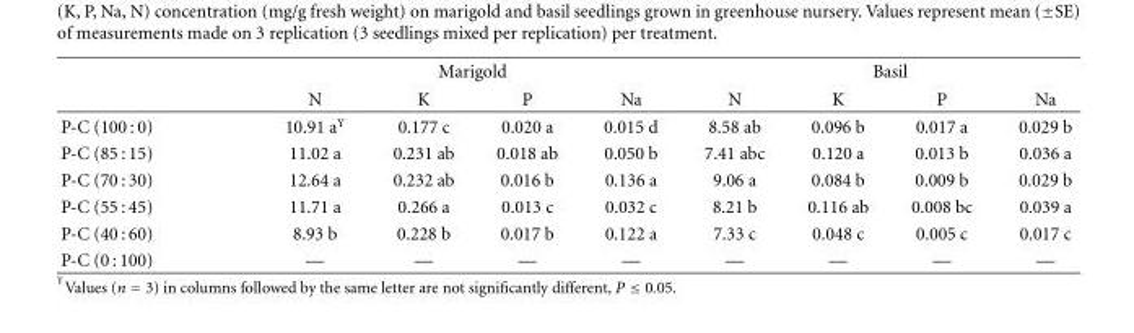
<table><thead><tr><td rowspan="2"></td><td colspan="4">Marigold</td><td colspan="4">Basil</td></tr><tr><td>N</td><td>K</td><td>P</td><td>Na</td><td>N</td><td>K</td><td>P</td><td>Na</td></tr></thead><tbody><tr><td>P-C (100 : 0)</td><td>10.91 a<sup>Y</sup></td><td>0.177 c</td><td>0.020 a</td><td>0.015 d</td><td>8.58 ab</td><td>0.096 b</td><td>0.017 a</td><td>0.029 b</td></tr><tr><td>P-C (85 : 15)</td><td>11.02 a</td><td>0.231 ab</td><td>0.018 ab</td><td>0.050 b</td><td>7.41 abc</td><td>0.120 a</td><td>0.013 b</td><td>0.036 a</td></tr><tr><td>P-C (70 : 30)</td><td>12.64 a</td><td>0.232 ab</td><td>0.016 b</td><td>0.136 a</td><td>9.06 a</td><td>0.084 b</td><td>0.009 b</td><td>0.029 b</td></tr><tr><td>P-C (55 : 45)</td><td>11.71 a</td><td>0.266 a</td><td>0.013 c</td><td>0.032 c</td><td>8.21 b</td><td>0.116 ab</td><td>0.008 bc</td><td>0.039 a</td></tr><tr><td>P-C (40 : 60)</td><td>8.93 b</td><td>0.228 b</td><td>0.017 b</td><td>0.122 a</td><td>7.33 c</td><td>0.048 c</td><td>0.005 c</td><td>0.017 c</td></tr><tr><td>P-C (0 : 100)</td><td>—</td><td>—</td><td>—</td><td>—</td><td>—</td><td>—</td><td>—</td><td>—</td></tr></tbody></table>